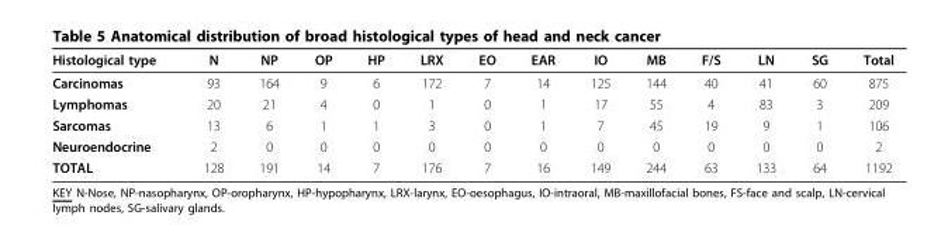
<table><thead><tr><td>Histological type</td><td>N</td><td>NP</td><td>OP</td><td>HP</td><td>LRX</td><td>EO</td><td>EAR</td><td>IO</td><td>MB</td><td>F/S</td><td>LN</td><td>SG</td><td>Total</td></tr></thead><tbody><tr><td>Carcinomas</td><td>93</td><td>164</td><td>9</td><td>6</td><td>172</td><td>7</td><td>14</td><td>125</td><td>144</td><td>40</td><td>41</td><td>60</td><td>875</td></tr><tr><td>Lymphomas</td><td>20</td><td>21</td><td>4</td><td>0</td><td>1</td><td>0</td><td>1</td><td>17</td><td>55</td><td>4</td><td>83</td><td>3</td><td>209</td></tr><tr><td>Sarcomas</td><td>13</td><td>6</td><td>1</td><td>1</td><td>3</td><td>0</td><td>1</td><td>7</td><td>45</td><td>19</td><td>9</td><td>1</td><td>106</td></tr><tr><td>Neuroendocrine</td><td>2</td><td>0</td><td>0</td><td>0</td><td>0</td><td>0</td><td>0</td><td>0</td><td>0</td><td>0</td><td>0</td><td>0</td><td>2</td></tr><tr><td>TOTAL</td><td>128</td><td>191</td><td>14</td><td>7</td><td>176</td><td>7</td><td>16</td><td>149</td><td>244</td><td>63</td><td>133</td><td>64</td><td>1192</td></tr></tbody></table>